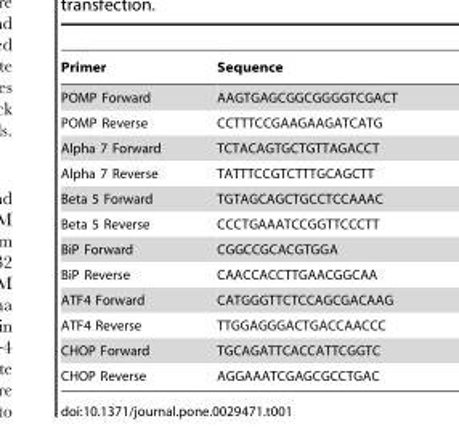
<table><thead><tr><td>Primer</td><td>Sequence</td></tr></thead><tbody><tr><td>POMP Forward</td><td>AAGTGAGCGGCGGGGTCGACT</td></tr><tr><td>POMP Reverse</td><td>CCTTTCCGAAGAAGATCATG</td></tr><tr><td>Alpha 7 Forward</td><td>TCTACAGTGCTGTTAGACCT</td></tr><tr><td>Alpha 7 Reverse</td><td>TATTTCCGTCTTTGCAGCTT</td></tr><tr><td>Beta 5 Forward</td><td>TGTAGCAGCTGCCTCCAAAC</td></tr><tr><td>Beta 5 Reverse</td><td>CCCTGAAATCCGGTTCCCTT</td></tr><tr><td>BiP Forward</td><td>CGGCCGCACGTGGA</td></tr><tr><td>BiP Reverse</td><td>CAACCACCTTGAACGGCAA</td></tr><tr><td>ATF4 Forward</td><td>CATGGGTTCTCCAGCGACAAG</td></tr><tr><td>ATF4 Reverse</td><td>TTGGAGGGACTGACCAACCC</td></tr><tr><td>CHOP Forward</td><td>TGCAGATTCACCATTCGGTC</td></tr><tr><td>CHOP Reverse</td><td>AGGAAATCGAGCGCCTGAC</td></tr></tbody></table>